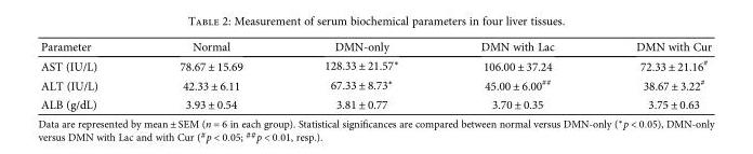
<table><thead><tr><td>Parameter</td><td>Normal</td><td>DMN-only</td><td>DMN with Lac</td><td>DMN with Cur</td></tr></thead><tbody><tr><td>AST (IU/L)</td><td>78.67 ± 15.69</td><td>128.33 ± 21.57∗</td><td>106.00 ± 37.24</td><td>72.33 ± 21.16<sup>#</sup></td></tr><tr><td>ALT (IU/L)</td><td>42.33 ± 6.11</td><td>67.33 ± 8.73∗</td><td>45.00 ± 6.00<sup>##</sup></td><td>38.67 ± 3.22<sup>#</sup></td></tr><tr><td>ALB (g/dL)</td><td>3.93 ± 0.54</td><td>3.81 ± 0.77</td><td>3.70 ± 0.35</td><td>3.75 ± 0.63</td></tr></tbody></table>